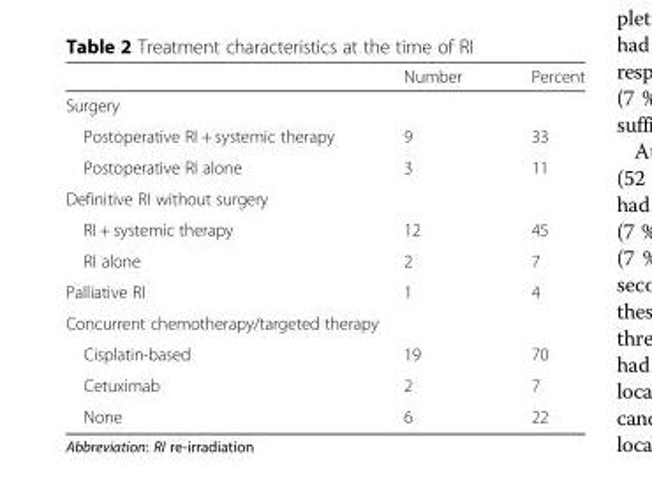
<table><thead><tr><td></td><td>Number</td><td>Percent</td></tr></thead><tbody><tr><td colspan="3">Surgery</td></tr><tr><td>Postoperative RI + systemic therapy</td><td>9</td><td>33</td></tr><tr><td>Postoperative RI alone</td><td>3</td><td>11</td></tr><tr><td colspan="3">Definitive RI without surgery</td></tr><tr><td>RI + systemic therapy</td><td>12</td><td>45</td></tr><tr><td>RI alone</td><td>2</td><td>7</td></tr><tr><td>Palliative RI</td><td>1</td><td>4</td></tr><tr><td colspan="3">Concurrent chemotherapy/targeted therapy</td></tr><tr><td>Cisplatin-based</td><td>19</td><td>70</td></tr><tr><td>Cetuximab</td><td>2</td><td>7</td></tr><tr><td>None</td><td>6</td><td>22</td></tr></tbody></table>